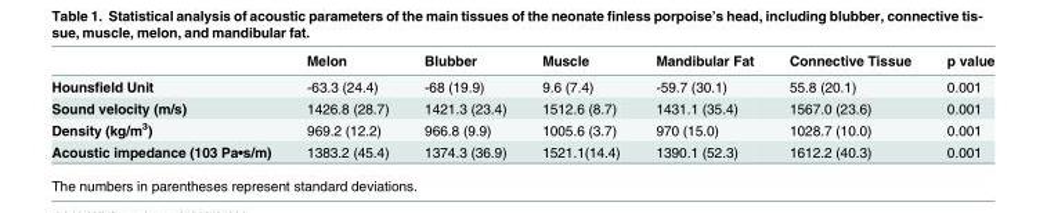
<table><thead><tr><td></td><td>Melon</td><td>Blubber</td><td>Muscle</td><td>Mandibular Fat</td><td>Connective Tissue</td><td>p value</td></tr></thead><tbody><tr><td>Hounsfield Unit</td><td>-63.3 (24.4)</td><td>-68 (19.9)</td><td>9.6 (7.4)</td><td>-59.7 (30.1)</td><td>55.8 (20.1)</td><td>0.001</td></tr><tr><td>Sound velocity (m/s)</td><td>1426.8 (28.7)</td><td>1421.3 (23.4)</td><td>1512.6 (8.7)</td><td>1431.1 (35.4)</td><td>1567.0 (23.6)</td><td>0.001</td></tr><tr><td>Density (kg/m<sup>3</sup>)</td><td>969.2 (12.2)</td><td>966.8 (9.9)</td><td>1005.6 (3.7)</td><td>970 (15.0)</td><td>1028.7 (10.0)</td><td>0.001</td></tr><tr><td>Acoustic impedance (103 Pa•s/m)</td><td>1383.2 (45.4)</td><td>1374.3 (36.9)</td><td>1521.1(14.4)</td><td>1390.1 (52.3)</td><td>1612.2 (40.3)</td><td>0.001</td></tr></tbody></table>